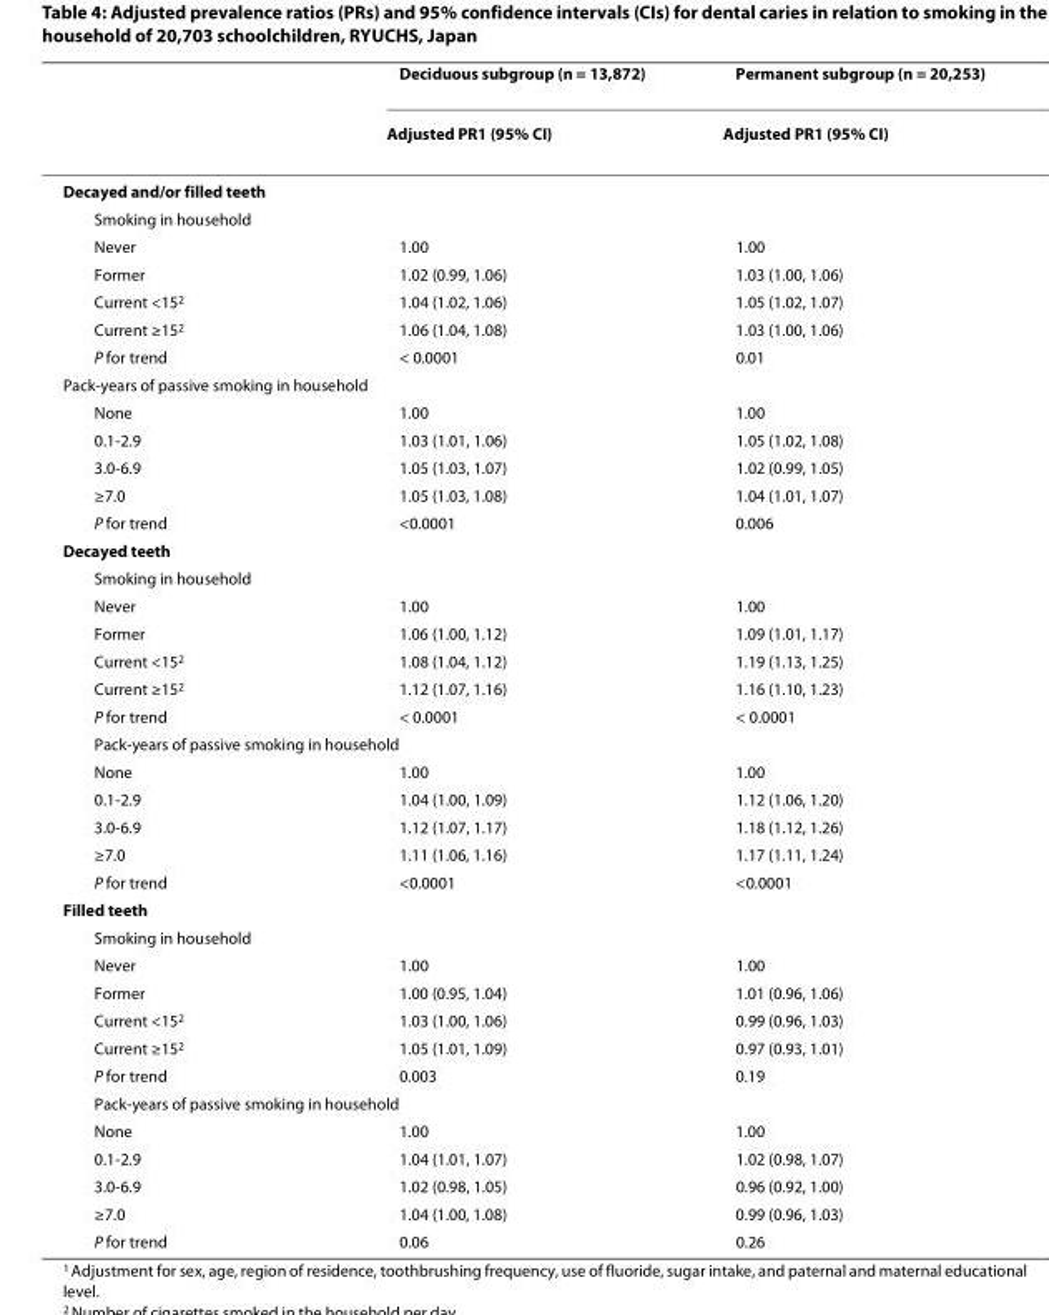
<table><thead><tr><td rowspan="2"></td><td rowspan="2">Deciduous subgroup (n = 13,872) Adjusted PR<sup>1</sup> (95% CI)</td><td rowspan="2">Permanent subgroup (n = 20,253) Adjusted PR<sup>1</sup> (95% CI)</td></tr><tr></tr></thead><tbody><tr><td colspan="3">Decayed and/or filled teeth</td></tr><tr><td colspan="3">Smoking in household</td></tr><tr><td>Never</td><td>1.00</td><td>1.00</td></tr><tr><td>Former</td><td>1.02 (0.99, 1.06)</td><td>1.03 (1.00, 1.06)</td></tr><tr><td>Current &lt;15<sup>2</sup></td><td>1.04 (1.02, 1.06)</td><td>1.05 (1.02, 1.07)</td></tr><tr><td>Current ≥15<sup>2</sup></td><td>1.06 (1.04, 1.08)</td><td>1.03 (1.00, 1.06)</td></tr><tr><td>P for trend</td><td>&lt; 0.0001</td><td>0.01</td></tr><tr><td colspan="3">Pack-years of passive smoking in household</td></tr><tr><td>None</td><td>1.00</td><td>1.00</td></tr><tr><td>0.1-2.9</td><td>1.03 (1.01, 1.06)</td><td>1.05 (1.02, 1.08)</td></tr><tr><td>3.0-6.9</td><td>1.05 (1.03, 1.07)</td><td>1.02 (0.99, 1.05)</td></tr><tr><td>≥7.0</td><td>1.05 (1.03, 1.08)</td><td>1.04 (1.01, 1.07)</td></tr><tr><td>P for trend</td><td>&lt;0.0001</td><td>0.006</td></tr><tr><td colspan="3">Decayed teeth</td></tr><tr><td colspan="3">Smoking in household</td></tr><tr><td>Never</td><td>1.00</td><td>1.00</td></tr><tr><td>Former</td><td>1.06 (1.00, 1.12)</td><td>1.09 (1.01, 1.17)</td></tr><tr><td>Current &lt;15<sup>2</sup></td><td>1.08 (1.04, 1.12)</td><td>1.19 (1.13, 1.25)</td></tr><tr><td>Current ≥15<sup>2</sup></td><td>1.12 (1.07, 1.16)</td><td>1.16 (1.10, 1.23)</td></tr><tr><td>P for trend</td><td>&lt; 0.0001</td><td>&lt; 0.0001</td></tr><tr><td colspan="3">Pack-years of passive smoking in household</td></tr><tr><td>None</td><td>1.00</td><td>1.00</td></tr><tr><td>0.1-2.9</td><td>1.04 (1.00, 1.09)</td><td>1.12 (1.06, 1.20)</td></tr><tr><td>3.0-6.9</td><td>1.12 (1.07, 1.17)</td><td>1.18 (1.12, 1.26)</td></tr><tr><td>≥7.0</td><td>1.11 (1.06, 1.16)</td><td>1.17 (1.11, 1.24)</td></tr><tr><td>P for trend</td><td>&lt;0.0001</td><td>&lt;0.0001</td></tr><tr><td colspan="3">Filled teeth</td></tr><tr><td colspan="3">Smoking in household</td></tr><tr><td>Never</td><td>1.00</td><td>1.00</td></tr><tr><td>Former</td><td>1.00 (0.95, 1.04)</td><td>1.01 (0.96, 1.06)</td></tr><tr><td>Current &lt;15<sup>2</sup></td><td>1.03 (1.00, 1.06)</td><td>0.99 (0.96, 1.03)</td></tr><tr><td>Current ≥15<sup>2</sup></td><td>1.05 (1.01, 1.09)</td><td>0.97 (0.93, 1.01)</td></tr><tr><td>P for trend</td><td>0.003</td><td>0.19</td></tr><tr><td colspan="3">Pack-years of passive smoking in household</td></tr><tr><td>None</td><td>1.00</td><td>1.00</td></tr><tr><td>0.1-2.9</td><td>1.04 (1.01, 1.07)</td><td>1.02 (0.98, 1.07)</td></tr><tr><td>3.0-6.9</td><td>1.02 (0.98, 1.05)</td><td>0.96 (0.92, 1.00)</td></tr><tr><td>≥7.0</td><td>1.04 (1.00, 1.08)</td><td>0.99 (0.96, 1.03)</td></tr><tr><td>P for trend</td><td>0.06</td><td>0.26</td></tr></tbody></table>